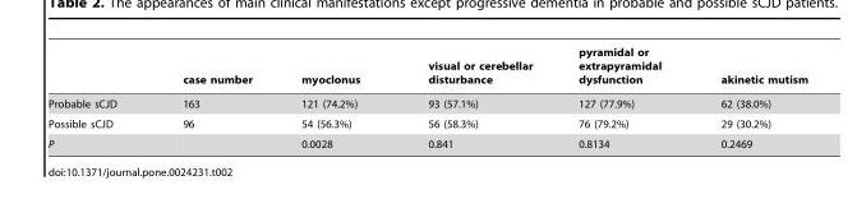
<table><thead><tr><td></td><td>case number</td><td>myoclonus</td><td>visual or cerebellar disturbance</td><td>pyramidal or extrapyramidal dysfunction</td><td>akinetic mutism</td></tr></thead><tbody><tr><td>Probable sCJD</td><td>163</td><td>121 (74.2%)</td><td>93 (57.1%)</td><td>127 (77.9%)</td><td>62 (38.0%)</td></tr><tr><td>Possible sCJD</td><td>96</td><td>54 (56.3%)</td><td>56 (58.3%)</td><td>76 (79.2%)</td><td>29 (30.2%)</td></tr><tr><td>P</td><td></td><td>0.0028</td><td>0.841</td><td>0.8134</td><td>0.2469</td></tr></tbody></table>